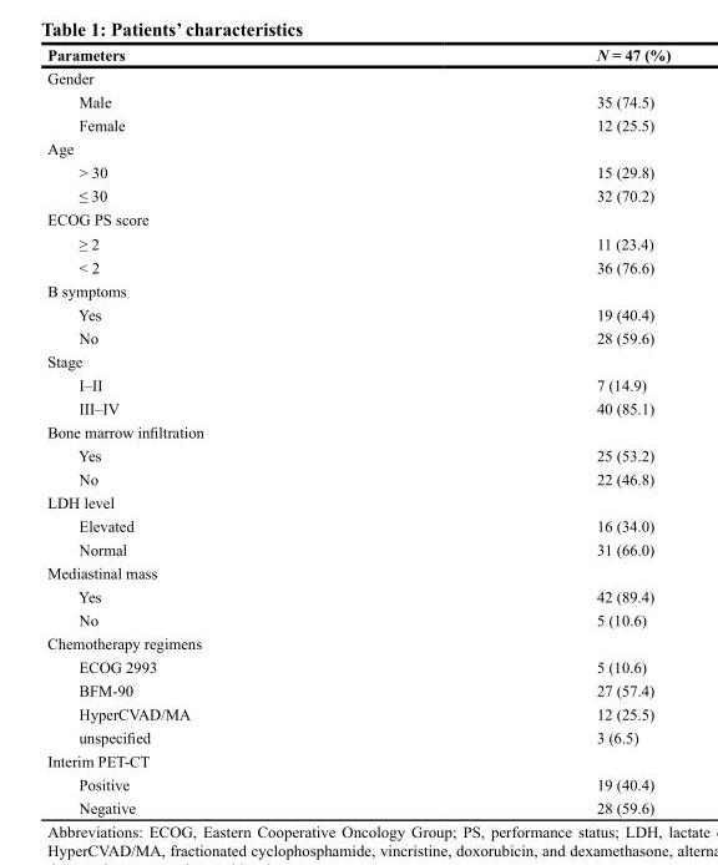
<table><thead><tr><td>Parameters</td><td>N = 47 (%)</td></tr></thead><tbody><tr><td colspan="2">Gender</td></tr><tr><td>Male</td><td>35 (74.5)</td></tr><tr><td>Female</td><td>12 (25.5)</td></tr><tr><td colspan="2">Age</td></tr><tr><td>&gt; 30</td><td>15 (29.8)</td></tr><tr><td>≤ 30</td><td>32 (70.2)</td></tr><tr><td colspan="2">ECOG PS score</td></tr><tr><td>≥ 2</td><td>11 (23.4)</td></tr><tr><td>&lt; 2</td><td>36 (76.6)</td></tr><tr><td colspan="2">B symptoms</td></tr><tr><td>Yes</td><td>19 (40.4)</td></tr><tr><td>No</td><td>28 (59.6)</td></tr><tr><td colspan="2">Stage</td></tr><tr><td>I–II</td><td>7 (14.9)</td></tr><tr><td>III–IV</td><td>40 (85.1)</td></tr><tr><td colspan="2">Bone marrow infiltration</td></tr><tr><td>Yes</td><td>25 (53.2)</td></tr><tr><td>No</td><td>22 (46.8)</td></tr><tr><td colspan="2">LDH level</td></tr><tr><td>Elevated</td><td>16 (34.0)</td></tr><tr><td>Normal</td><td>31 (66.0)</td></tr><tr><td colspan="2">Mediastinal mass</td></tr><tr><td>Yes</td><td>42 (89.4)</td></tr><tr><td>No</td><td>5 (10.6)</td></tr><tr><td colspan="2">Chemotherapy regimens</td></tr><tr><td>ECOG 2993</td><td>5 (10.6)</td></tr><tr><td>BFM-90</td><td>27 (57.4)</td></tr><tr><td>HyperCVAD/MA</td><td>12 (25.5)</td></tr><tr><td>unspecified</td><td>3 (6.5)</td></tr><tr><td colspan="2">Interim PET-CT</td></tr><tr><td>Positive</td><td>19 (40.4)</td></tr><tr><td>Negative</td><td>28 (59.6)</td></tr></tbody></table>